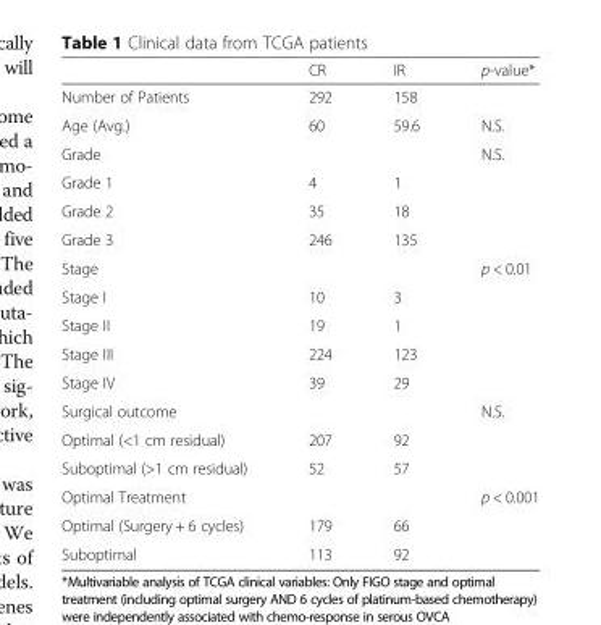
<table><thead><tr><td></td><td>CR</td><td>IR</td><td>p-value*</td></tr></thead><tbody><tr><td>Number of Patients</td><td>292</td><td>158</td><td></td></tr><tr><td>Age (Avg.)</td><td>60</td><td>59.6</td><td>N.S.</td></tr><tr><td>Grade</td><td></td><td></td><td>N.S.</td></tr><tr><td>Grade 1</td><td>4</td><td>1</td><td></td></tr><tr><td>Grade 2</td><td>35</td><td>18</td><td></td></tr><tr><td>Grade 3</td><td>246</td><td>135</td><td></td></tr><tr><td>Stage</td><td></td><td></td><td>p &lt; 0.01</td></tr><tr><td>Stage I</td><td>10</td><td>3</td><td></td></tr><tr><td>Stage II</td><td>19</td><td>1</td><td></td></tr><tr><td>Stage III</td><td>224</td><td>123</td><td></td></tr><tr><td>Stage IV</td><td>39</td><td>29</td><td></td></tr><tr><td>Surgical outcome</td><td></td><td></td><td>N.S.</td></tr><tr><td>Optimal (&lt;1 cm residual)</td><td>207</td><td>92</td><td></td></tr><tr><td>Suboptimal (&gt;1 cm residual)</td><td>52</td><td>57</td><td></td></tr><tr><td>Optimal Treatment</td><td></td><td></td><td>p &lt; 0.001</td></tr><tr><td>Optimal (Surgery + 6 cycles)</td><td>179</td><td>66</td><td></td></tr><tr><td>Suboptimal</td><td>113</td><td>92</td><td></td></tr></tbody></table>